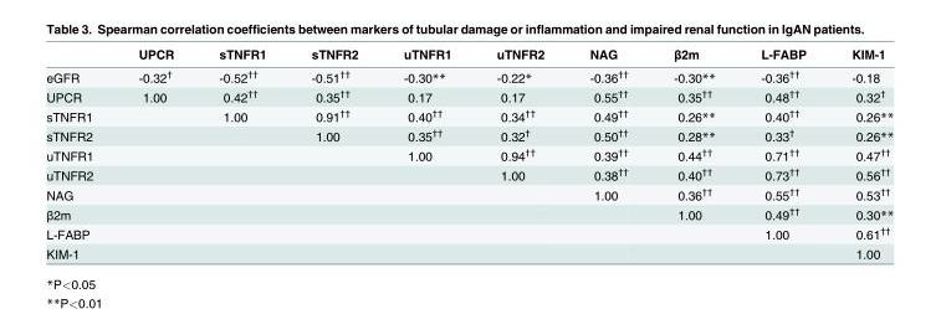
<table><thead><tr><td></td><td>UPCR</td><td>sTNFR1</td><td>sTNFR2</td><td>uTNFR1</td><td>uTNFR2</td><td>NAG</td><td>β2m</td><td>L-FABP</td><td>KIM-1</td></tr></thead><tbody><tr><td>eGFR</td><td>-0.32<sup>†</sup></td><td>-0.52<sup>††</sup></td><td>-0.51<sup>††</sup></td><td>-0.30**</td><td>-0.22*</td><td>-0.36<sup>††</sup></td><td>-0.30**</td><td>-0.36<sup>††</sup></td><td>-0.18</td></tr><tr><td>UPCR</td><td>1.00</td><td>0.42<sup>††</sup></td><td>0.35<sup>††</sup></td><td>0.17</td><td>0.17</td><td>0.55<sup>††</sup></td><td>0.35<sup>††</sup></td><td>0.48<sup>††</sup></td><td>0.32<sup>†</sup></td></tr><tr><td>sTNFR1</td><td></td><td>1.00</td><td>0.91<sup>††</sup></td><td>0.40<sup>††</sup></td><td>0.34<sup>††</sup></td><td>0.49<sup>††</sup></td><td>0.26**</td><td>0.40<sup>††</sup></td><td>0.26**</td></tr><tr><td>sTNFR2</td><td></td><td></td><td>1.00</td><td>0.35<sup>††</sup></td><td>0.32<sup>†</sup></td><td>0.50<sup>††</sup></td><td>0.28**</td><td>0.33<sup>†</sup></td><td>0.26**</td></tr><tr><td>uTNFR1</td><td></td><td></td><td></td><td>1.00</td><td>0.94<sup>††</sup></td><td>0.39<sup>††</sup></td><td>0.44<sup>††</sup></td><td>0.71<sup>††</sup></td><td>0.47<sup>††</sup></td></tr><tr><td>uTNFR2</td><td></td><td></td><td></td><td></td><td>1.00</td><td>0.38<sup>††</sup></td><td>0.40<sup>††</sup></td><td>0.73<sup>††</sup></td><td>0.56<sup>††</sup></td></tr><tr><td>NAG</td><td></td><td></td><td></td><td></td><td></td><td>1.00</td><td>0.36<sup>††</sup></td><td>0.55<sup>††</sup></td><td>0.53<sup>††</sup></td></tr><tr><td>β2m</td><td></td><td></td><td></td><td></td><td></td><td></td><td>1.00</td><td>0.49<sup>††</sup></td><td>0.30**</td></tr><tr><td>L-FABP</td><td></td><td></td><td></td><td></td><td></td><td></td><td></td><td>1.00</td><td>0.61<sup>††</sup></td></tr><tr><td>KIM-1</td><td></td><td></td><td></td><td></td><td></td><td></td><td></td><td></td><td>1.00</td></tr></tbody></table>